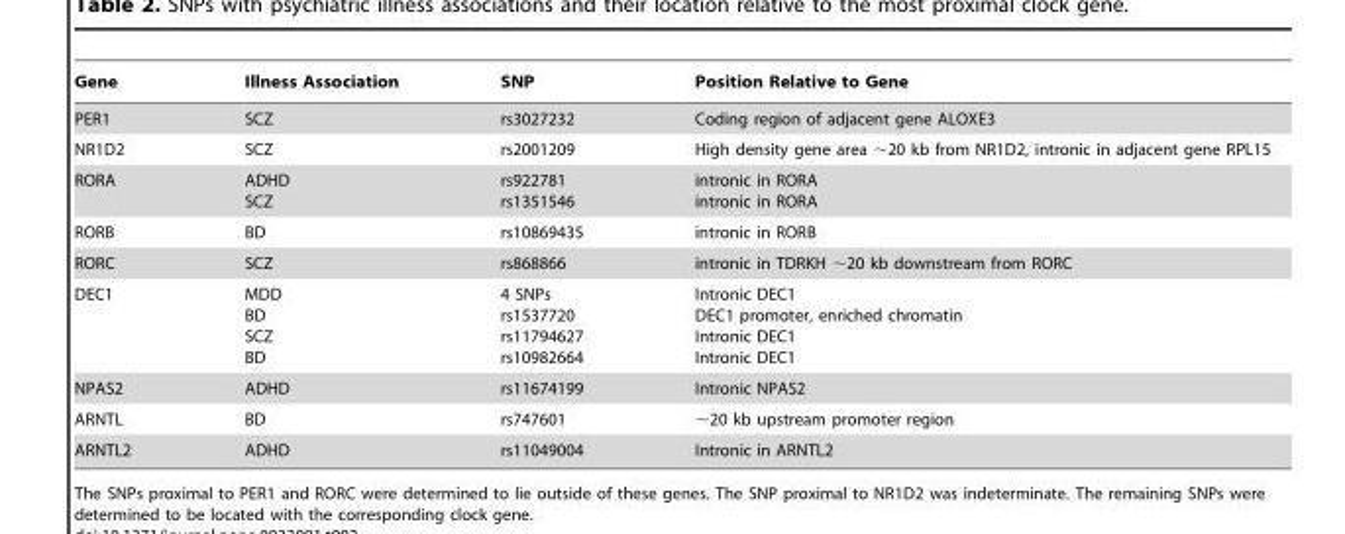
<table><thead><tr><td>Gene</td><td>Illness Association</td><td>SNP</td><td>Position Relative to Gene</td></tr></thead><tbody><tr><td>PER1</td><td>SCZ</td><td>rs3027232</td><td>Coding region of adjacent gene ALOXE3</td></tr><tr><td>NR1D2</td><td>SCZ</td><td>rs2001209</td><td>High density gene area ∼20 kb from NR1D2, intronic in adjacent gene RPL15</td></tr><tr><td>RORA</td><td>ADHD SCZ</td><td>rs922781 rs1351546</td><td>intronic in RORA intronic in RORA</td></tr><tr><td>RORB</td><td>BD</td><td>rs10869435</td><td>intronic in RORB</td></tr><tr><td>RORC</td><td>SCZ</td><td>rs868866</td><td>intronic in TDRKH ∼20 kb downstream from RORC</td></tr><tr><td>DEC1</td><td>MDD BD SCZ BD</td><td>4 SNPs rs1537720 rs11794627 rs10982664</td><td>Intronic DEC1 DEC1 promoter, enriched chromatin Intronic DEC1 Intronic DEC1</td></tr><tr><td>NPAS2</td><td>ADHD</td><td>rs11674199</td><td>Intronic NPAS2</td></tr><tr><td>ARNTL</td><td>BD</td><td>rs747601</td><td>∼20 kb upstream promoter region</td></tr><tr><td>ARNTL2</td><td>ADHD</td><td>rs11049004</td><td>Intronic in ARNTL2</td></tr></tbody></table>